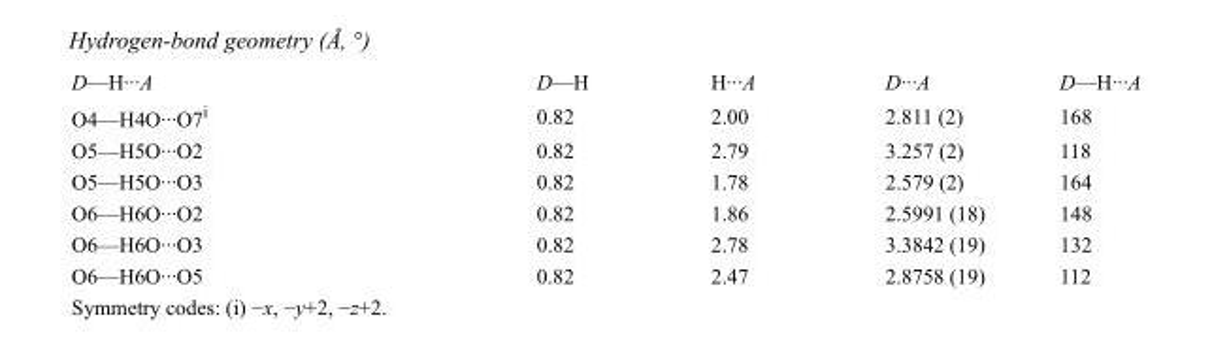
<table><tbody><tr><td>D—H···A</td><td>D—H</td><td>H···A</td><td>D···A</td><td>D—H···A</td></tr><tr><td>O4—H4O···O7<sup>i</sup></td><td>0.82</td><td>2.00</td><td>2.811 (2)</td><td>168</td></tr><tr><td>O5—H5O···O2</td><td>0.82</td><td>2.79</td><td>3.257 (2)</td><td>118</td></tr><tr><td>O5—H5O···O3</td><td>0.82</td><td>1.78</td><td>2.579 (2)</td><td>164</td></tr><tr><td>O6—H6O···O2</td><td>0.82</td><td>1.86</td><td>2.5991 (18)</td><td>148</td></tr><tr><td>O6—H6O···O3</td><td>0.82</td><td>2.78</td><td>3.3842 (19)</td><td>132</td></tr><tr><td>O6—H6O···O5</td><td>0.82</td><td>2.47</td><td>2.8758 (19)</td><td>112</td></tr></tbody></table>